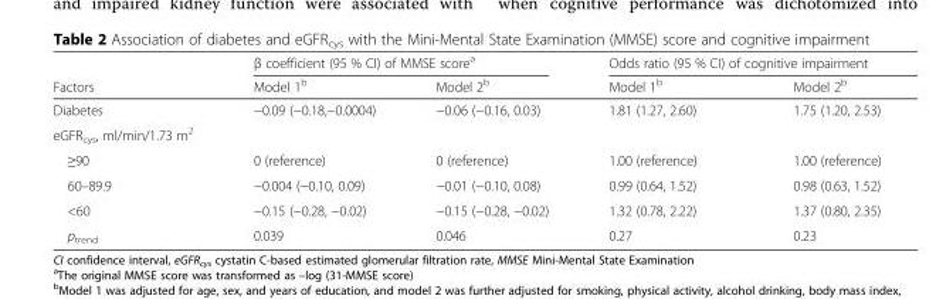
<table><thead><tr><td rowspan="2">Factors</td><td colspan="2">β coefficient (95 % CI) of MMSE score<sup>a</sup></td><td colspan="2">Odds ratio (95 % CI) of cognitive impairment</td></tr><tr><td>Model 1<sup>b</sup></td><td>Model 2<sup>b</sup></td><td>Model 1<sup>b</sup></td><td>Model 2<sup>b</sup></td></tr></thead><tbody><tr><td>Diabetes</td><td>−0.09 (−0.18,−0.0004)</td><td>−0.06 (−0.16, 0.03)</td><td>1.81 (1.27, 2.60)</td><td>1.75 (1.20, 2.53)</td></tr><tr><td colspan="5">eGFR<sub>cys</sub>, ml/min/1.73 m<sup>2</sup></td></tr><tr><td>≥90</td><td>0 (reference)</td><td>0 (reference)</td><td>1.00 (reference)</td><td>1.00 (reference)</td></tr><tr><td>60–89.9</td><td>−0.004 (−0.10, 0.09)</td><td>−0.01 (−0.10, 0.08)</td><td>0.99 (0.64, 1.52)</td><td>0.98 (0.63, 1.52)</td></tr><tr><td>&lt;60</td><td>−0.15 (−0.28, −0.02)</td><td>−0.15 (−0.28, −0.02)</td><td>1.32 (0.78, 2.22)</td><td>1.37 (0.80, 2.35)</td></tr><tr><td>p<sub>trend</sub></td><td>0.039</td><td>0.046</td><td>0.27</td><td>0.23</td></tr></tbody></table>